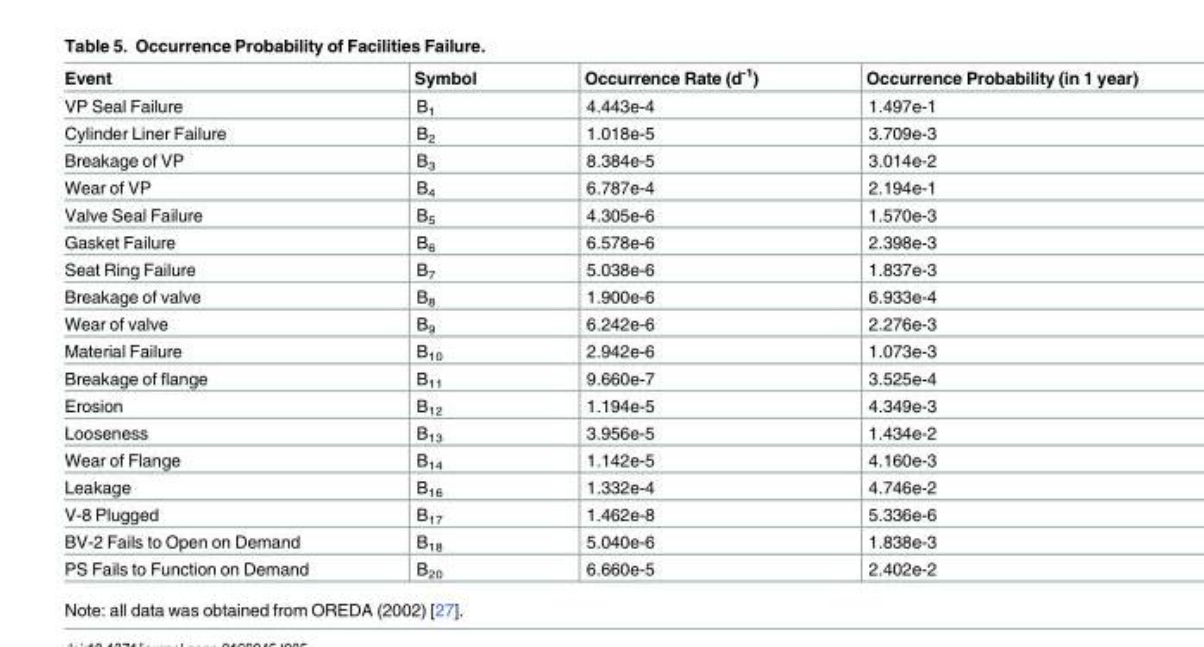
<table><thead><tr><td>Event</td><td>Symbol</td><td>Occurrence Rate (d<sup>-1</sup>)</td><td>Occurrence Probability (in 1 year)</td></tr></thead><tbody><tr><td>VP Seal Failure</td><td>B<sub>1</sub></td><td>4.443e-4</td><td>1.497e-1</td></tr><tr><td>Cylinder Liner Failure</td><td>B<sub>2</sub></td><td>1.018e-5</td><td>3.709e-3</td></tr><tr><td>Breakage of VP</td><td>B<sub>3</sub></td><td>8.384e-5</td><td>3.014e-2</td></tr><tr><td>Wear of VP</td><td>B<sub>4</sub></td><td>6.787e-4</td><td>2.194e-1</td></tr><tr><td>Valve Seal Failure</td><td>B<sub>5</sub></td><td>4.305e-6</td><td>1.570e-3</td></tr><tr><td>Gasket Failure</td><td>B<sub>6</sub></td><td>6.578e-6</td><td>2.398e-3</td></tr><tr><td>Seat Ring Failure</td><td>B<sub>7</sub></td><td>5.038e-6</td><td>1.837e-3</td></tr><tr><td>Breakage of valve</td><td>B<sub>8</sub></td><td>1.900e-6</td><td>6.933e-4</td></tr><tr><td>Wear of valve</td><td>B<sub>9</sub></td><td>6.242e-6</td><td>2.276e-3</td></tr><tr><td>Material Failure</td><td>B<sub>10</sub></td><td>2.942e-6</td><td>1.073e-3</td></tr><tr><td>Breakage of flange</td><td>B<sub>11</sub></td><td>9.660e-7</td><td>3.525e-4</td></tr><tr><td>Erosion</td><td>B<sub>12</sub></td><td>1.194e-5</td><td>4.349e-3</td></tr><tr><td>Looseness</td><td>B<sub>13</sub></td><td>3.956e-5</td><td>1.434e-2</td></tr><tr><td>Wear of Flange</td><td>B<sub>14</sub></td><td>1.142e-5</td><td>4.160e-3</td></tr><tr><td>Leakage</td><td>B<sub>16</sub></td><td>1.332e-4</td><td>4.746e-2</td></tr><tr><td>V-8 Plugged</td><td>B<sub>17</sub></td><td>1.462e-8</td><td>5.336e-6</td></tr><tr><td>BV-2 Fails to Open on Demand</td><td>B<sub>18</sub></td><td>5.040e-6</td><td>1.838e-3</td></tr><tr><td>PS Fails to Function on Demand</td><td>B<sub>20</sub></td><td>6.660e-5</td><td>2.402e-2</td></tr></tbody></table>